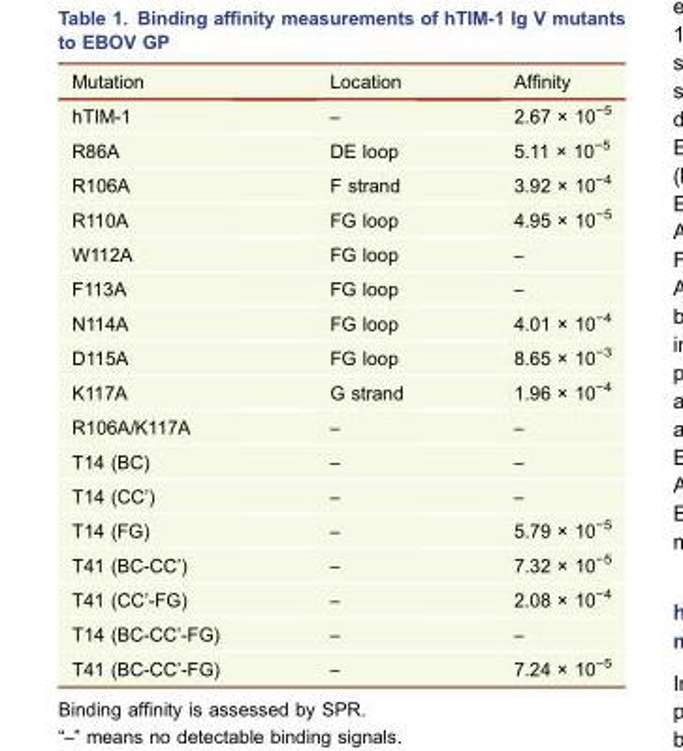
<table><thead><tr><td>Mutation</td><td>Location</td><td>Affinity</td></tr></thead><tbody><tr><td>hTIM-1</td><td>–</td><td>2.67 × 10<sup>−5</sup></td></tr><tr><td>R86A</td><td>DE loop</td><td>5.11 × 10<sup>−5</sup></td></tr><tr><td>R106A</td><td>F strand</td><td>3.92 × 10<sup>−4</sup></td></tr><tr><td>R110A</td><td>FG loop</td><td>4.95 × 10<sup>−5</sup></td></tr><tr><td>W112A</td><td>FG loop</td><td>–</td></tr><tr><td>F113A</td><td>FG loop</td><td>–</td></tr><tr><td>N114A</td><td>FG loop</td><td>4.01 × 10<sup>−4</sup></td></tr><tr><td>D115A</td><td>FG loop</td><td>8.65 × 10<sup>−3</sup></td></tr><tr><td>K117A</td><td>G strand</td><td>1.96 × 10<sup>−4</sup></td></tr><tr><td>R106A/K117A</td><td>–</td><td>–</td></tr><tr><td>T14 (BC)</td><td>–</td><td>–</td></tr><tr><td>T14 (CC’)</td><td>–</td><td>–</td></tr><tr><td>T14 (FG)</td><td>–</td><td>5.79 × 10<sup>−5</sup></td></tr><tr><td>T41 (BC-CC’)</td><td>–</td><td>7.32 × 10<sup>−5</sup></td></tr><tr><td>T41 (CC’-FG)</td><td>–</td><td>2.08 × 10<sup>−4</sup></td></tr><tr><td>T14 (BC-CC’-FG)</td><td>–</td><td>–</td></tr><tr><td>T41 (BC-CC’-FG)</td><td>–</td><td>7.24 × 10<sup>−5</sup></td></tr></tbody></table>